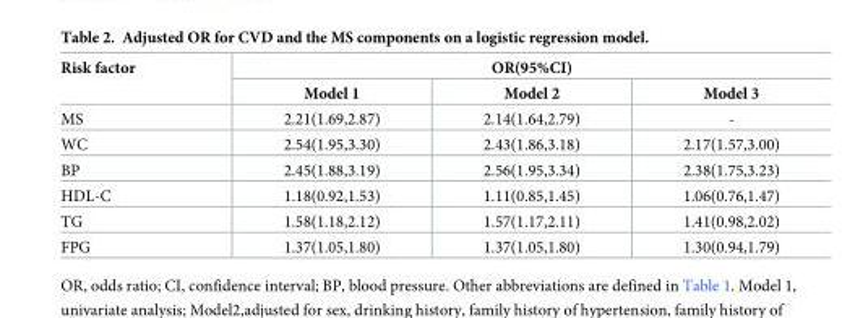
<table><thead><tr><td rowspan="2">Risk factor</td><td colspan="3">OR(95%CI)</td></tr><tr><td>Model 1</td><td>Model 2</td><td>Model 3</td></tr></thead><tbody><tr><td>MS</td><td>2.21(1.69,2.87)</td><td>2.14(1.64,2.79)</td><td>-</td></tr><tr><td>WC</td><td>2.54(1.95,3.30)</td><td>2.43(1.86,3.18)</td><td>2.17(1.57,3.00)</td></tr><tr><td>BP</td><td>2.45(1.88,3.19)</td><td>2.56(1.95,3.34)</td><td>2.38(1.75,3.23)</td></tr><tr><td>HDL-C</td><td>1.18(0.92,1.53)</td><td>1.11(0.85,1.45)</td><td>1.06(0.76,1.47)</td></tr><tr><td>TG</td><td>1.58(1.18,2.12)</td><td>1.57(1.17,2.11)</td><td>1.41(0.98,2.02)</td></tr><tr><td>FPG</td><td>1.37(1.05,1.80)</td><td>1.37(1.05,1.80)</td><td>1.30(0.94,1.79)</td></tr></tbody></table>